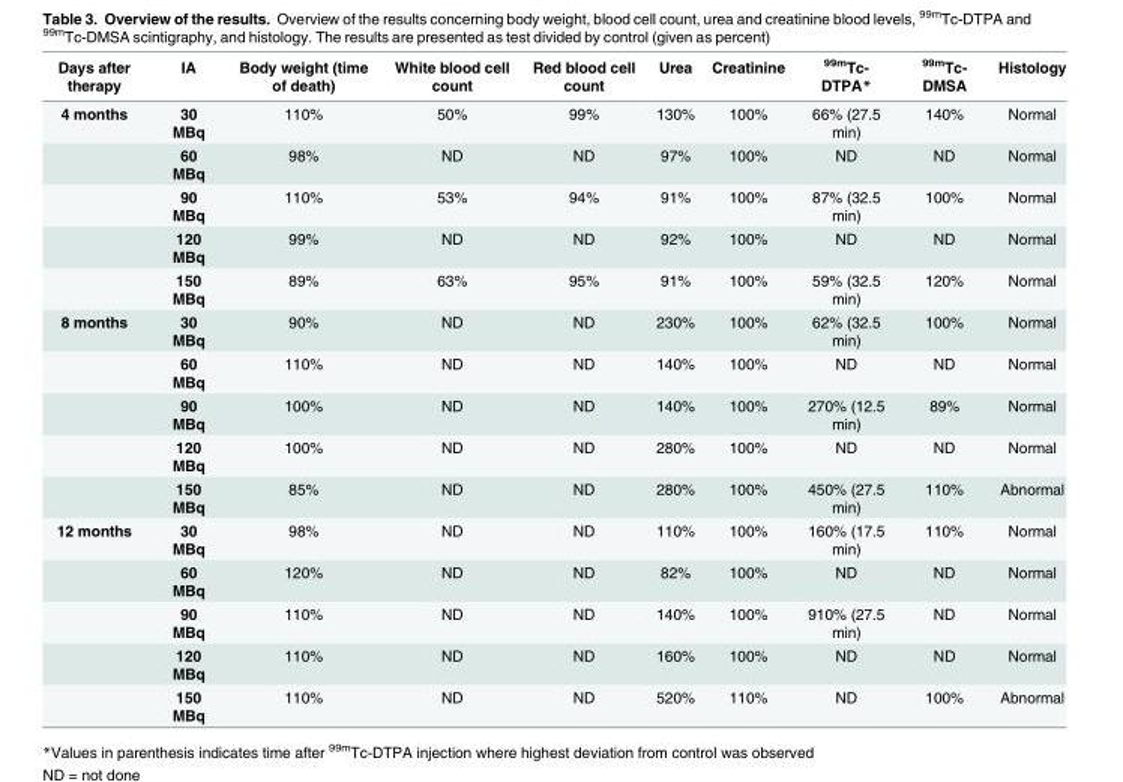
<table><thead><tr><td>Days after therapy</td><td>IA</td><td>Body weight (time of death)</td><td>White blood cell count</td><td>Red blood cell count</td><td>Urea</td><td>Creatinine</td><td><sup>99m</sup>Tc- DTPA*</td><td><sup>99m</sup>Tc- DMSA</td><td>Histology</td></tr></thead><tbody><tr><td rowspan="5">4 months</td><td>30 MBq</td><td>110%</td><td>50%</td><td>99%</td><td>130%</td><td>100%</td><td>66% (27.5 min)</td><td>140%</td><td>Normal</td></tr><tr><td>60 MBq</td><td>98%</td><td>ND</td><td>ND</td><td>97%</td><td>100%</td><td>ND</td><td>ND</td><td>Normal</td></tr><tr><td>90 MBq</td><td>110%</td><td>53%</td><td>94%</td><td>91%</td><td>100%</td><td>87% (32.5 min)</td><td>100%</td><td>Normal</td></tr><tr><td>120 MBq</td><td>99%</td><td>ND</td><td>ND</td><td>92%</td><td>100%</td><td>ND</td><td>ND</td><td>Normal</td></tr><tr><td>150 MBq</td><td>89%</td><td>63%</td><td>95%</td><td>91%</td><td>100%</td><td>59% (32.5 min)</td><td>120%</td><td>Normal</td></tr><tr><td rowspan="5">8 months</td><td>30 MBq</td><td>90%</td><td>ND</td><td>ND</td><td>230%</td><td>100%</td><td>62% (32.5 min)</td><td>100%</td><td>Normal</td></tr><tr><td>60 MBq</td><td>110%</td><td>ND</td><td>ND</td><td>140%</td><td>100%</td><td>ND</td><td>ND</td><td>Normal</td></tr><tr><td>90 MBq</td><td>100%</td><td>ND</td><td>ND</td><td>140%</td><td>100%</td><td>270% (12.5 min)</td><td>89%</td><td>Normal</td></tr><tr><td>120 MBq</td><td>100%</td><td>ND</td><td>ND</td><td>280%</td><td>100%</td><td>ND</td><td>ND</td><td>Normal</td></tr><tr><td>150 MBq</td><td>85%</td><td>ND</td><td>ND</td><td>280%</td><td>100%</td><td>450% (27.5 min)</td><td>110%</td><td>Abnormal</td></tr><tr><td rowspan="5">12 months</td><td>30 MBq</td><td>98%</td><td>ND</td><td>ND</td><td>110%</td><td>100%</td><td>160% (17.5 min)</td><td>110%</td><td>Normal</td></tr><tr><td>60 MBq</td><td>120%</td><td>ND</td><td>ND</td><td>82%</td><td>100%</td><td>ND</td><td>ND</td><td>Normal</td></tr><tr><td>90 MBq</td><td>110%</td><td>ND</td><td>ND</td><td>140%</td><td>100%</td><td>910% (27.5 min)</td><td>ND</td><td>Normal</td></tr><tr><td>120 MBq</td><td>110%</td><td>ND</td><td>ND</td><td>160%</td><td>100%</td><td>ND</td><td>ND</td><td>Normal</td></tr><tr><td>150 MBq</td><td>110%</td><td>ND</td><td>ND</td><td>520%</td><td>110%</td><td>ND</td><td>100%</td><td>Abnormal</td></tr></tbody></table>